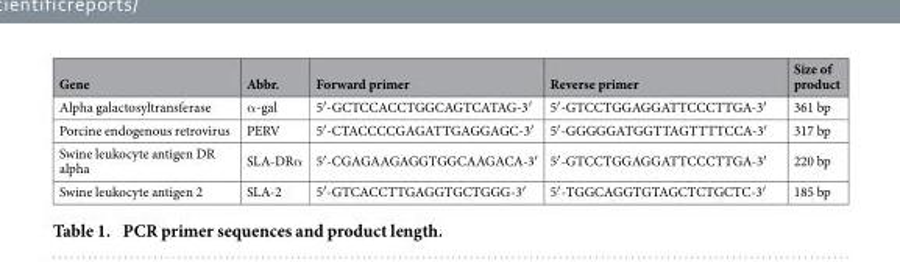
<table><thead><tr><td>Gene</td><td>Abbr.</td><td>Forward primer</td><td>Reverse primer</td><td>Size of product</td></tr></thead><tbody><tr><td>Alpha galactosyltransferase</td><td>α -gal</td><td>5′ -GCTCCACCTGGCAGTCATAG-3′</td><td>5′ -GTCCTGGAGGATTCCCTTGA-3′</td><td>361 bp</td></tr><tr><td>Porcine endogenous retrovirus</td><td>PERV</td><td>5′ -CTACCCCGAGATTGAGGAGC-3′</td><td>5′ -GGGGGATGGTTAGTTTTCCA-3′</td><td>317 bp</td></tr><tr><td>Swine leukocyte antigen DR alpha</td><td>SLA-DRα</td><td>5′ -CGAGAAGAGGTGGCAAGACA-3′</td><td>5′ -GTCCTGGAGGATTCCCTTGA-3′</td><td>220 bp</td></tr><tr><td>Swine leukocyte antigen 2</td><td>SLA-2</td><td>5′ -GTCACCTTGAGGTGCTGGG-3′</td><td>5′ -TGGCAGGTGTAGCTCTGCTC-3′</td><td>185 bp</td></tr></tbody></table>